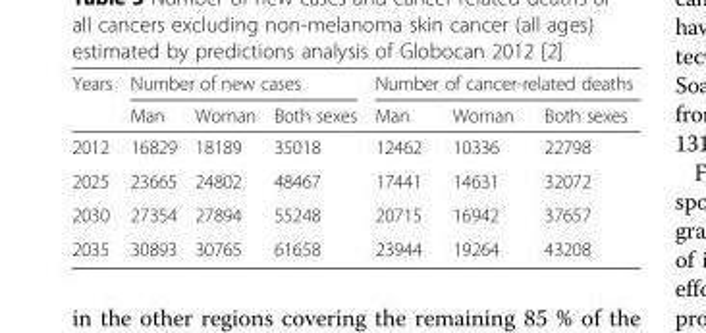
<table><thead><tr><td rowspan="2">Years</td><td colspan="3">Number of new cases</td><td colspan="3">Number of cancer-related deaths</td></tr><tr><td>Man</td><td>Woman</td><td>Both sexes</td><td>Man</td><td>Woman</td><td>Both sexes</td></tr></thead><tbody><tr><td>2012</td><td>16829</td><td>18189</td><td>35018</td><td>12462</td><td>10336</td><td>22798</td></tr><tr><td>2025</td><td>23665</td><td>24802</td><td>48467</td><td>17441</td><td>14631</td><td>32072</td></tr><tr><td>2030</td><td>27354</td><td>27894</td><td>55248</td><td>20715</td><td>16942</td><td>37657</td></tr><tr><td>2035</td><td>30893</td><td>30765</td><td>61658</td><td>23944</td><td>19264</td><td>43208</td></tr></tbody></table>